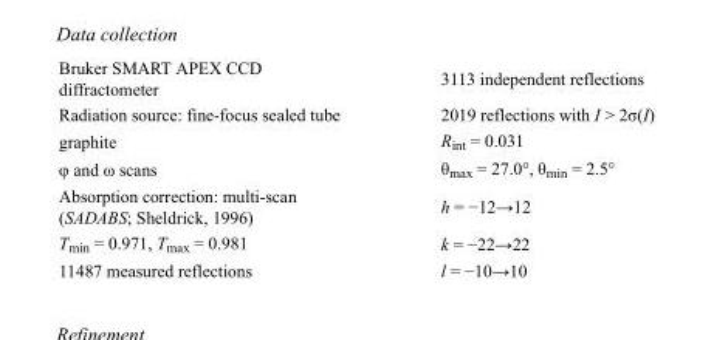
<table><tbody><tr><td>Bruker SMART APEX CCD diffractometer</td><td>3113 independent reflections</td></tr><tr><td>Radiation source: fine-focus sealed tube</td><td>2019 reflections with I &gt; 2σ(I)</td></tr><tr><td>graphite</td><td>R<sub>int</sub> = 0.031</td></tr><tr><td>φ and ω scans</td><td>θ<sub>max</sub> = 27.0°, θ<sub>min</sub> = 2.5°</td></tr><tr><td>Absorption correction: multi-scan (SADABS; Sheldrick, 1996)</td><td>h = −12→12</td></tr><tr><td>T<sub>min</sub> = 0.971, T<sub>max</sub> = 0.981</td><td>k = −22→22</td></tr><tr><td>11487 measured reflections</td><td>l = −10→10</td></tr></tbody></table>